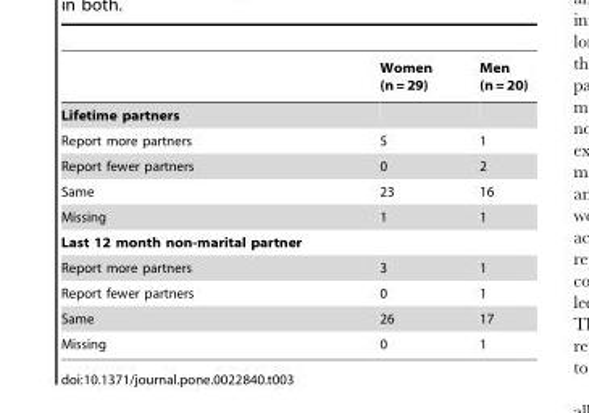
<table><thead><tr><td></td><td>Women (n = 29)</td><td>Men (n = 20)</td></tr></thead><tbody><tr><td colspan="3">Lifetime partners</td></tr><tr><td>Report more partners</td><td>5</td><td>1</td></tr><tr><td>Report fewer partners</td><td>0</td><td>2</td></tr><tr><td>Same</td><td>23</td><td>16</td></tr><tr><td>Missing</td><td>1</td><td>1</td></tr><tr><td colspan="3">Last 12 month non-marital partner</td></tr><tr><td>Report more partners</td><td>3</td><td>1</td></tr><tr><td>Report fewer partners</td><td>0</td><td>1</td></tr><tr><td>Same</td><td>26</td><td>17</td></tr><tr><td>Missing</td><td>0</td><td>1</td></tr></tbody></table>